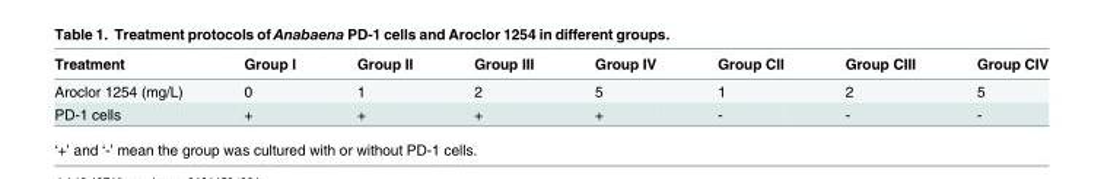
<table><thead><tr><td>Treatment</td><td>Group I</td><td>Group II</td><td>Group III</td><td>Group IV</td><td>Group CII</td><td>Group CIII</td><td>Group CIV</td></tr></thead><tbody><tr><td>Aroclor 1254 (mg/L)</td><td>0</td><td>1</td><td>2</td><td>5</td><td>1</td><td>2</td><td>5</td></tr><tr><td>PD-1 cells</td><td>+</td><td>+</td><td>+</td><td>+</td><td>-</td><td>-</td><td>-</td></tr></tbody></table>